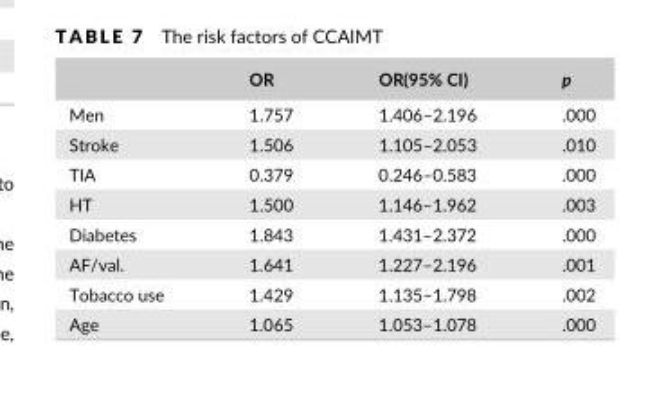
<table><thead><tr><td></td><td>OR</td><td>OR(95% CI)</td><td>p</td></tr></thead><tbody><tr><td>Men</td><td>1.757</td><td>1.406–2.196</td><td>.000</td></tr><tr><td>Stroke</td><td>1.506</td><td>1.105–2.053</td><td>.010</td></tr><tr><td>TIA</td><td>0.379</td><td>0.246–0.583</td><td>.000</td></tr><tr><td>HT</td><td>1.500</td><td>1.146–1.962</td><td>.003</td></tr><tr><td>Diabetes</td><td>1.843</td><td>1.431–2.372</td><td>.000</td></tr><tr><td>AF/val.</td><td>1.641</td><td>1.227–2.196</td><td>.001</td></tr><tr><td>Tobacco use</td><td>1.429</td><td>1.135–1.798</td><td>.002</td></tr><tr><td>Age</td><td>1.065</td><td>1.053–1.078</td><td>.000</td></tr></tbody></table>